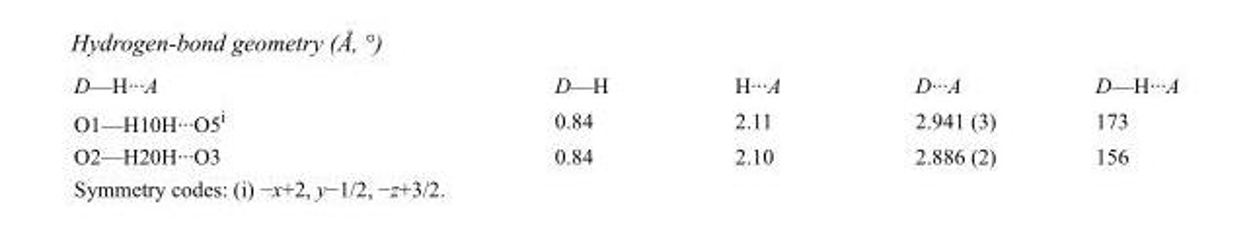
<table><tbody><tr><td>D—H···A</td><td>D—H</td><td>H···A</td><td>D···A</td><td>D—H···A</td></tr><tr><td>O1—H10H···O5<sup>i</sup></td><td>0.84</td><td>2.11</td><td>2.941 (3)</td><td>173</td></tr><tr><td>O2—H20H···O3</td><td>0.84</td><td>2.10</td><td>2.886 (2)</td><td>156</td></tr></tbody></table>